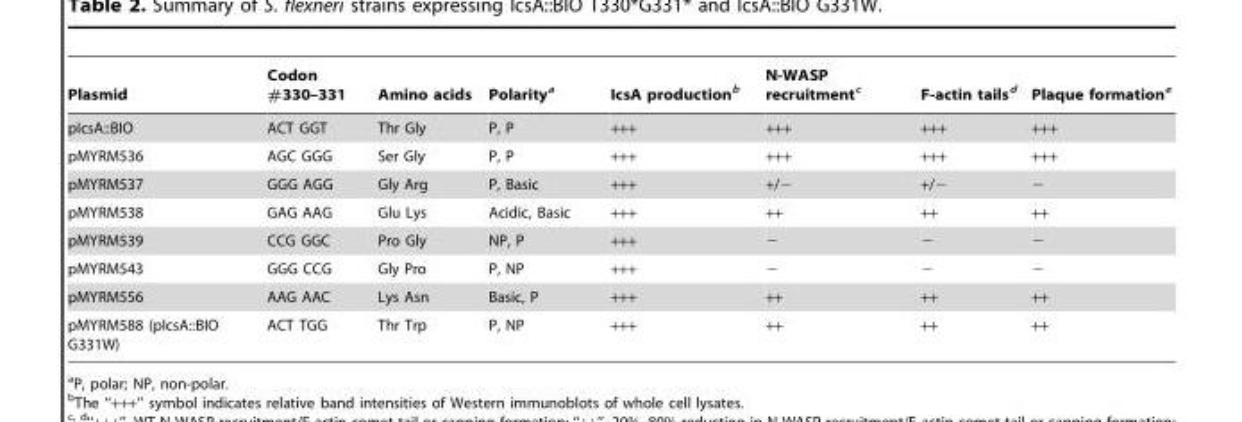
<table><thead><tr><td>Plasmid</td><td>Codon #330–331</td><td>Amino acids</td><td>Polarity<sup>a</sup></td><td>IcsA production<sup>b</sup></td><td>N-WASP recruitment<sup>c</sup></td><td>F-actin tails<sup>d</sup></td><td>Plaque formation<sup>e</sup></td></tr></thead><tbody><tr><td>pIcsA::BIO</td><td>ACT GGT</td><td>Thr Gly</td><td>P, P</td><td>+++</td><td>+++</td><td>+++</td><td>+++</td></tr><tr><td>pMYRM536</td><td>AGC GGG</td><td>Ser Gly</td><td>P, P</td><td>+++</td><td>+++</td><td>+++</td><td>+++</td></tr><tr><td>pMYRM537</td><td>GGG AGG</td><td>Gly Arg</td><td>P, Basic</td><td>+++</td><td>+/−</td><td>+/−</td><td>−</td></tr><tr><td>pMYRM538</td><td>GAG AAG</td><td>Glu Lys</td><td>Acidic, Basic</td><td>+++</td><td>++</td><td>++</td><td>++</td></tr><tr><td>pMYRM539</td><td>CCG GGC</td><td>Pro Gly</td><td>NP, P</td><td>+++</td><td>−</td><td>−</td><td>−</td></tr><tr><td>pMYRM543</td><td>GGG CCG</td><td>Gly Pro</td><td>P, NP</td><td>+++</td><td>−</td><td>−</td><td>−</td></tr><tr><td>pMYRM556</td><td>AAG AAC</td><td>Lys Asn</td><td>Basic, P</td><td>+++</td><td>++</td><td>++</td><td>++</td></tr><tr><td>pMYRM588 (pIcsA::BIO G331W)</td><td>ACT TGG</td><td>Thr Trp</td><td>P, NP</td><td>+++</td><td>++</td><td>++</td><td>++</td></tr></tbody></table>